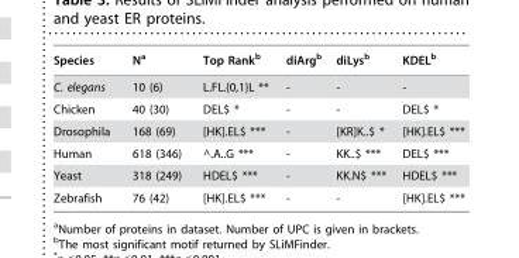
<table><thead><tr><td>Species</td><td>N<sup>a</sup></td><td>Top Rank<sup>b</sup></td><td>diArg<sup>b</sup></td><td>diLys<sup>b</sup></td><td>KDEL<sup>b</sup></td></tr></thead><tbody><tr><td>C. elegans</td><td>10 (6)</td><td>L.FL.{0,1}L **</td><td>-</td><td>-</td><td>-</td></tr><tr><td>Chicken</td><td>40 (30)</td><td>DEL$ *</td><td>-</td><td>-</td><td>DEL$ *</td></tr><tr><td>Drosophila</td><td>168 (69)</td><td>[HK].EL$ ***</td><td>-</td><td>[KR]K..$ *</td><td>[HK].EL$ ***</td></tr><tr><td>Human</td><td>618 (346)</td><td>^.A..G ***</td><td>-</td><td>KK..$ ***</td><td>DEL$ ***</td></tr><tr><td>Yeast</td><td>318 (249)</td><td>HDEL$ ***</td><td>-</td><td>KK.N$ ***</td><td>HDEL$ ***</td></tr><tr><td>Zebrafish</td><td>76 (42)</td><td>[HK].EL$ ***</td><td>-</td><td>-</td><td>[HK].EL$ ***</td></tr></tbody></table>